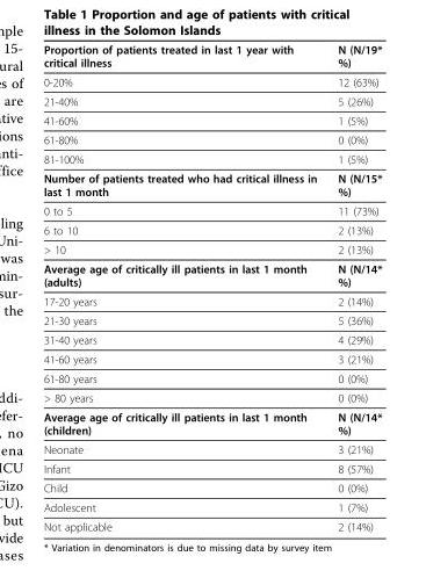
<table><thead><tr><td>Proportion of patients treated in last 1 year with critical illness</td><td>N (N/19* %)</td></tr></thead><tbody><tr><td>0-20%</td><td>12 (63%)</td></tr><tr><td>21-40%</td><td>5 (26%)</td></tr><tr><td>41-60%</td><td>1 (5%)</td></tr><tr><td>61-80%</td><td>0 (0%)</td></tr><tr><td>81-100%</td><td>1 (5%)</td></tr><tr><td>Number of patients treated who had critical illness in last 1 month</td><td>N (N/15* %)</td></tr><tr><td>0 to 5</td><td>11 (73%)</td></tr><tr><td>6 to 10</td><td>2 (13%)</td></tr><tr><td>&gt; 10</td><td>2 (13%)</td></tr><tr><td>Average age of critically ill patients in last 1 month (adults)</td><td>N (N/14* %)</td></tr><tr><td>17-20 years</td><td>2 (14%)</td></tr><tr><td>21-30 years</td><td>5 (36%)</td></tr><tr><td>31-40 years</td><td>4 (29%)</td></tr><tr><td>41-60 years</td><td>3 (21%)</td></tr><tr><td>61-80 years</td><td>0 (0%)</td></tr><tr><td>&gt; 80 years</td><td>0 (0%)</td></tr><tr><td>Average age of critically ill patients in last 1 month (children)</td><td>N (N/14* %)</td></tr><tr><td>Neonate</td><td>3 (21%)</td></tr><tr><td>Infant</td><td>8 (57%)</td></tr><tr><td>Child</td><td>0 (0%)</td></tr><tr><td>Adolescent</td><td>1 (7%)</td></tr><tr><td>Not applicable</td><td>2 (14%)</td></tr></tbody></table>